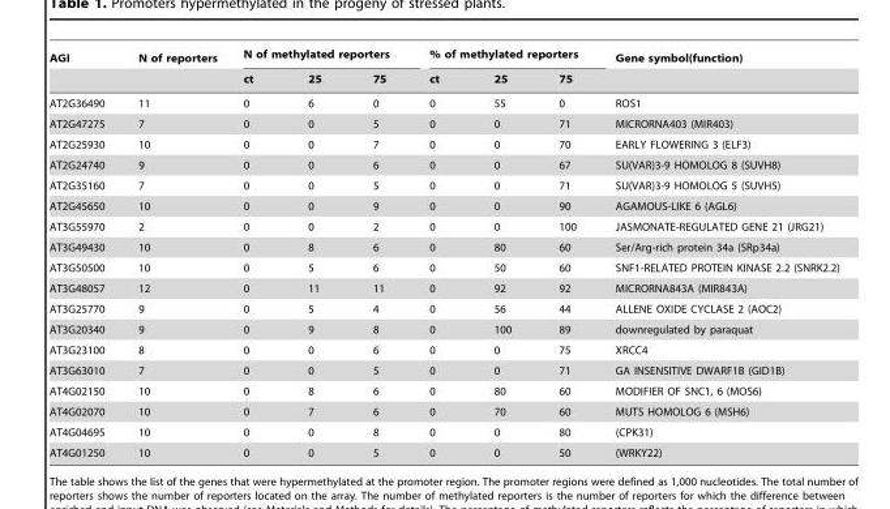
<table><thead><tr><td rowspan="2">AGI</td><td rowspan="2">N of reporters</td><td colspan="3">N of methylated reporters</td><td colspan="3">% of methylated reporters</td><td rowspan="2">Gene symbol(function)</td></tr><tr><td>ct</td><td>25</td><td>75</td><td>ct</td><td>25</td><td>75</td></tr></thead><tbody><tr><td>AT2G36490</td><td>11</td><td>0</td><td>6</td><td>0</td><td>0</td><td>55</td><td>0</td><td>ROS1</td></tr><tr><td>AT2G47275</td><td>7</td><td>0</td><td>0</td><td>5</td><td>0</td><td>0</td><td>71</td><td>MICRORNA403 (MIR403)</td></tr><tr><td>AT2G25930</td><td>10</td><td>0</td><td>0</td><td>7</td><td>0</td><td>0</td><td>70</td><td>EARLY FLOWERING 3 (ELF3)</td></tr><tr><td>AT2G24740</td><td>9</td><td>0</td><td>0</td><td>6</td><td>0</td><td>0</td><td>67</td><td>SU(VAR)3-9 HOMOLOG 8 (SUVH8)</td></tr><tr><td>AT2G35160</td><td>7</td><td>0</td><td>0</td><td>5</td><td>0</td><td>0</td><td>71</td><td>SU(VAR)3-9 HOMOLOG 5 (SUVH5)</td></tr><tr><td>AT2G45650</td><td>10</td><td>0</td><td>0</td><td>9</td><td>0</td><td>0</td><td>90</td><td>AGAMOUS-LIKE 6 (AGL6)</td></tr><tr><td>AT3G55970</td><td>2</td><td>0</td><td>0</td><td>2</td><td>0</td><td>0</td><td>100</td><td>JASMONATE-REGULATED GENE 21 (JRG21)</td></tr><tr><td>AT3G49430</td><td>10</td><td>0</td><td>8</td><td>6</td><td>0</td><td>80</td><td>60</td><td>Ser/Arg-rich protein 34a (SRp34a)</td></tr><tr><td>AT3G50500</td><td>10</td><td>0</td><td>5</td><td>6</td><td>0</td><td>50</td><td>60</td><td>SNF1-RELATED PROTEIN KINASE 2.2 (SNRK2.2)</td></tr><tr><td>AT3G48057</td><td>12</td><td>0</td><td>11</td><td>11</td><td>0</td><td>92</td><td>92</td><td>MICRORNA843A (MIR843A)</td></tr><tr><td>AT3G25770</td><td>9</td><td>0</td><td>5</td><td>4</td><td>0</td><td>56</td><td>44</td><td>ALLENE OXIDE CYCLASE 2 (AOC2)</td></tr><tr><td>AT3G20340</td><td>9</td><td>0</td><td>9</td><td>8</td><td>0</td><td>100</td><td>89</td><td>downregulated by paraquat</td></tr><tr><td>AT3G23100</td><td>8</td><td>0</td><td>0</td><td>6</td><td>0</td><td>0</td><td>75</td><td>XRCC4</td></tr><tr><td>AT3G63010</td><td>7</td><td>0</td><td>0</td><td>5</td><td>0</td><td>0</td><td>71</td><td>GA INSENSITIVE DWARF1B (GID1B)</td></tr><tr><td>AT4G02150</td><td>10</td><td>0</td><td>8</td><td>6</td><td>0</td><td>80</td><td>60</td><td>MODIFIER OF SNC1, 6 (MOS6)</td></tr><tr><td>AT4G02070</td><td>10</td><td>0</td><td>7</td><td>6</td><td>0</td><td>70</td><td>60</td><td>MUTS HOMOLOG 6 (MSH6)</td></tr><tr><td>AT4G04695</td><td>10</td><td>0</td><td>0</td><td>8</td><td>0</td><td>0</td><td>80</td><td>(CPK31)</td></tr><tr><td>AT4G01250</td><td>10</td><td>0</td><td>0</td><td>5</td><td>0</td><td>0</td><td>50</td><td>(WRKY22)</td></tr></tbody></table>